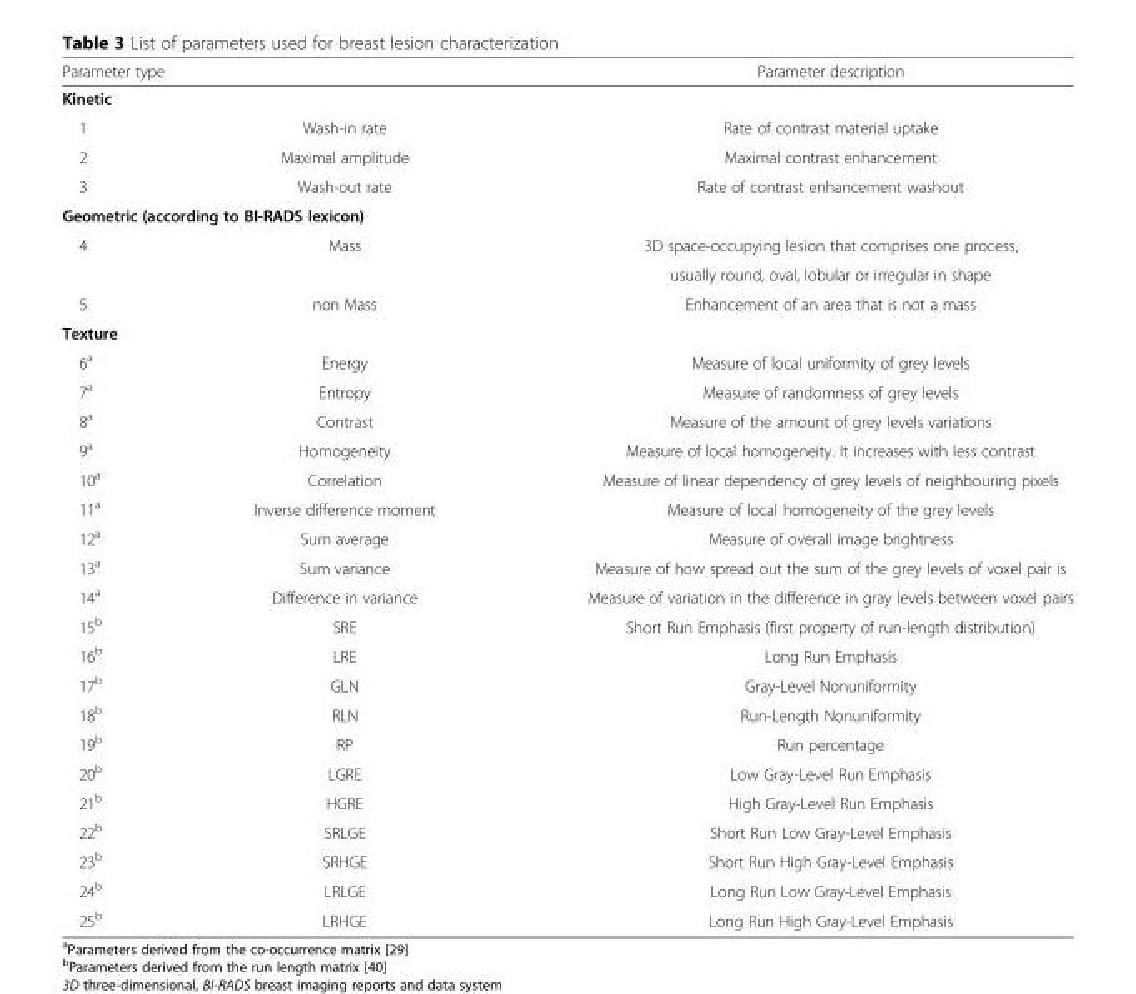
<table><thead><tr><td rowspan="2" colspan="2">Parameter type Kinetic</td><td rowspan="3">Parameter description Rate of contrast material uptake</td></tr><tr></tr><tr><td>1</td><td>Wash-in rate</td></tr></thead><tbody><tr><td>2</td><td>Maximal amplitude</td><td>Maximal contrast enhancement</td></tr><tr><td>3</td><td>Wash-out rate</td><td>Rate of contrast enhancement washout</td></tr><tr><td colspan="3">Geometric (according to BI-RADS lexicon)</td></tr><tr><td rowspan="2">4</td><td>Mass</td><td>3D space-occupying lesion that comprises one process,</td></tr><tr><td></td><td>usually round, oval, lobular or irregular in shape</td></tr><tr><td>5</td><td>non Mass</td><td>Enhancement of an area that is not a mass</td></tr><tr><td colspan="3">Texture</td></tr><tr><td>6<sup>a</sup></td><td>Energy</td><td>Measure of local uniformity of grey levels</td></tr><tr><td>7<sup>a</sup></td><td>Entropy</td><td>Measure of randomness of grey levels</td></tr><tr><td>8<sup>a</sup></td><td>Contrast</td><td>Measure of the amount of grey levels variations</td></tr><tr><td>9<sup>a</sup></td><td>Homogeneity</td><td>Measure of local homogeneity. It increases with less contrast</td></tr><tr><td>10<sup>a</sup></td><td>Correlation</td><td>Measure of linear dependency of grey levels of neighbouring pixels</td></tr><tr><td>11<sup>a</sup></td><td>Inverse difference moment</td><td>Measure of local homogeneity of the grey levels</td></tr><tr><td>12<sup>a</sup></td><td>Sum average</td><td>Measure of overall image brightness</td></tr><tr><td>13<sup>a</sup></td><td>Sum variance</td><td>Measure of how spread out the sum of the grey levels of voxel pair is</td></tr><tr><td>14<sup>a</sup></td><td>Difference in variance</td><td>Measure of variation in the difference in gray levels between voxel pairs</td></tr><tr><td>15<sup>b</sup></td><td>SRE</td><td>Short Run Emphasis (first property of run-length distribution)</td></tr><tr><td>16<sup>b</sup></td><td>LRE</td><td>Long Run Emphasis</td></tr><tr><td>17<sup>b</sup></td><td>GLN</td><td>Gray-Level Nonuniformity</td></tr><tr><td>18<sup>b</sup></td><td>RLN</td><td>Run-Length Nonuniformity</td></tr><tr><td>19<sup>b</sup></td><td>RP</td><td>Run percentage</td></tr><tr><td>20<sup>b</sup></td><td>LGRE</td><td>Low Gray-Level Run Emphasis</td></tr><tr><td>21<sup>b</sup></td><td>HGRE</td><td>High Gray-Level Run Emphasis</td></tr><tr><td>22<sup>b</sup></td><td>SRLGE</td><td>Short Run Low Gray-Level Emphasis</td></tr><tr><td>23<sup>b</sup></td><td>SRHGE</td><td>Short Run High Gray-Level Emphasis</td></tr><tr><td>24<sup>b</sup></td><td>LRLGE</td><td>Long Run Low Gray-Level Emphasis</td></tr><tr><td>25<sup>b</sup></td><td>LRHGE</td><td>Long Run High Gray-Level Emphasis</td></tr></tbody></table>